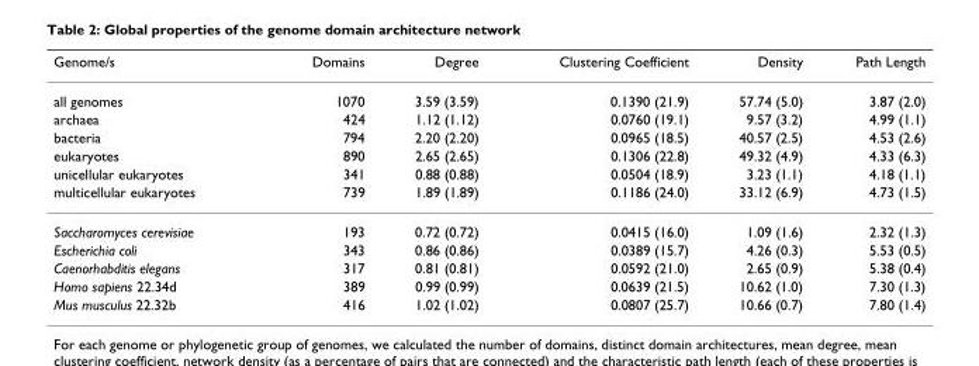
<table><thead><tr><td>Genome/s</td><td>Domains</td><td>Degree</td><td>Clustering Coefficient</td><td>Density</td><td>Path Length</td></tr></thead><tbody><tr><td>all genomes</td><td>1070</td><td>3.59 (3.59)</td><td>0.1390 (21.9)</td><td>57.74 (5.0)</td><td>3.87 (2.0)</td></tr><tr><td>archaea</td><td>424</td><td>1.12 (1.12)</td><td>0.0760 (19.1)</td><td>9.57 (3.2)</td><td>4.99 (1.1)</td></tr><tr><td>bacteria</td><td>794</td><td>2.20 (2.20)</td><td>0.0965 (18.5)</td><td>40.57 (2.5)</td><td>4.53 (2.6)</td></tr><tr><td>eukaryotes</td><td>890</td><td>2.65 (2.65)</td><td>0.1306 (22.8)</td><td>49.32 (4.9)</td><td>4.33 (6.3)</td></tr><tr><td>unicellular eukaryotes</td><td>341</td><td>0.88 (0.88)</td><td>0.0504 (18.9)</td><td>3.23 (1.1)</td><td>4.18 (1.1)</td></tr><tr><td>multicellular eukaryotes</td><td>739</td><td>1.89 (1.89)</td><td>0.1186 (24.0)</td><td>33.12 (6.9)</td><td>4.73 (1.5)</td></tr><tr><td>Saccharomyces cerevisiae</td><td>193</td><td>0.72 (0.72)</td><td>0.0415 (16.0)</td><td>1.09 (1.6)</td><td>2.32 (1.3)</td></tr><tr><td>Escherichia coli</td><td>343</td><td>0.86 (0.86)</td><td>0.0389 (15.7)</td><td>4.26 (0.3)</td><td>5.53 (0.5)</td></tr><tr><td>Caenorhabditis elegans</td><td>317</td><td>0.81 (0.81)</td><td>0.0592 (21.0)</td><td>2.65 (0.9)</td><td>5.38 (0.4)</td></tr><tr><td>Homo sapiens 22.34d</td><td>389</td><td>0.99 (0.99)</td><td>0.0639 (21.5)</td><td>10.62 (1.0)</td><td>7.30 (1.3)</td></tr><tr><td>Mus musculus 22.32b</td><td>416</td><td>1.02 (1.02)</td><td>0.0807 (25.7)</td><td>10.66 (0.7)</td><td>7.80 (1.4)</td></tr></tbody></table>